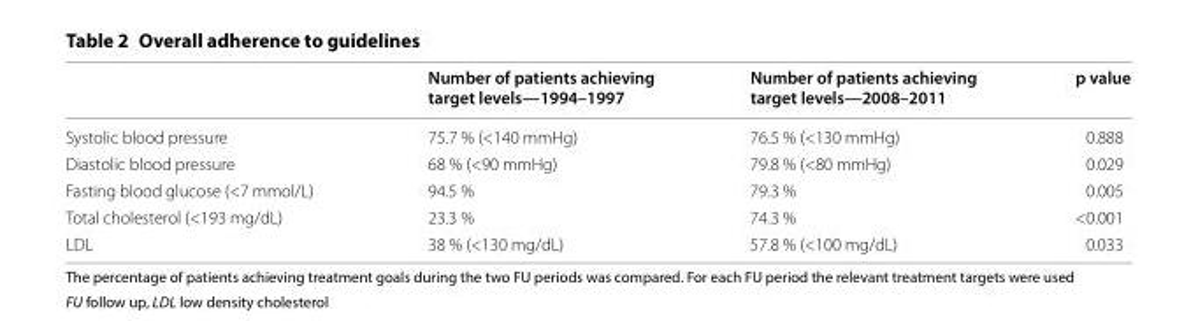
<table><thead><tr><td></td><td>Number of patients achieving target levels—1994–1997</td><td>Number of patients achieving target levels—2008–2011</td><td>p value</td></tr></thead><tbody><tr><td>Systolic blood pressure</td><td>75.7 % (&lt;140 mmHg)</td><td>76.5 % (&lt;130 mmHg)</td><td>0.888</td></tr><tr><td>Diastolic blood pressure</td><td>68 % (&lt;90 mmHg)</td><td>79.8 % (&lt;80 mmHg)</td><td>0.029</td></tr><tr><td>Fasting blood glucose (&lt;7 mmol/L)</td><td>94.5 %</td><td>79.3 %</td><td>0.005</td></tr><tr><td>Total cholesterol (&lt;193 mg/dL)</td><td>23.3 %</td><td>74.3 %</td><td>&lt;0.001</td></tr><tr><td>LDL</td><td>38 % (&lt;130 mg/dL)</td><td>57.8 % (&lt;100 mg/dL)</td><td>0.033</td></tr></tbody></table>